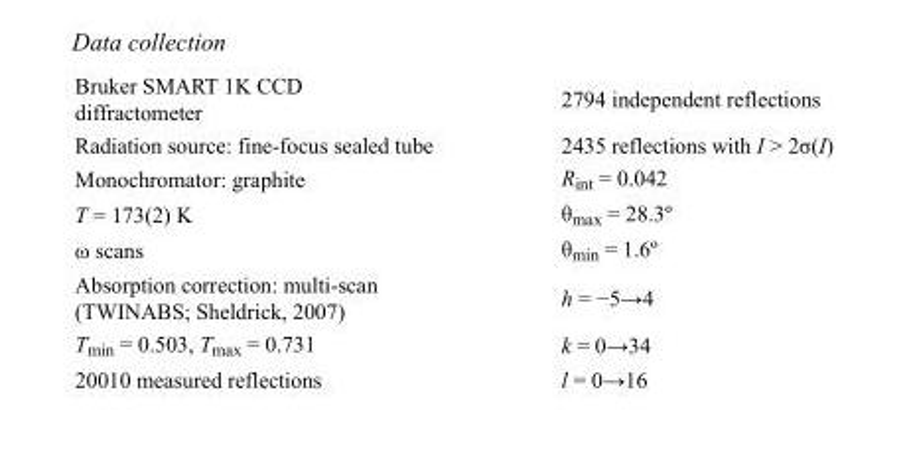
<table><tbody><tr><td>Bruker SMART 1K CCD diffractometer</td><td>2794 independent reflections</td></tr><tr><td>Radiation source: fine-focus sealed tube</td><td>2435 reflections with I &gt; 2σ(I)</td></tr><tr><td>Monochromator: graphite</td><td>R<sub>int</sub> = 0.042</td></tr><tr><td>T = 173(2) K</td><td>θ<sub>max</sub> = 28.3º</td></tr><tr><td>ω scans</td><td>θ<sub>min</sub> = 1.6º</td></tr><tr><td>Absorption correction: multi-scan (TWINABS; Sheldrick, 2007)</td><td>h = −5→4</td></tr><tr><td>T<sub>min</sub> = 0.503, T<sub>max</sub> = 0.731</td><td>k = 0→34</td></tr><tr><td>20010 measured reflections</td><td>l = 0→16</td></tr></tbody></table>